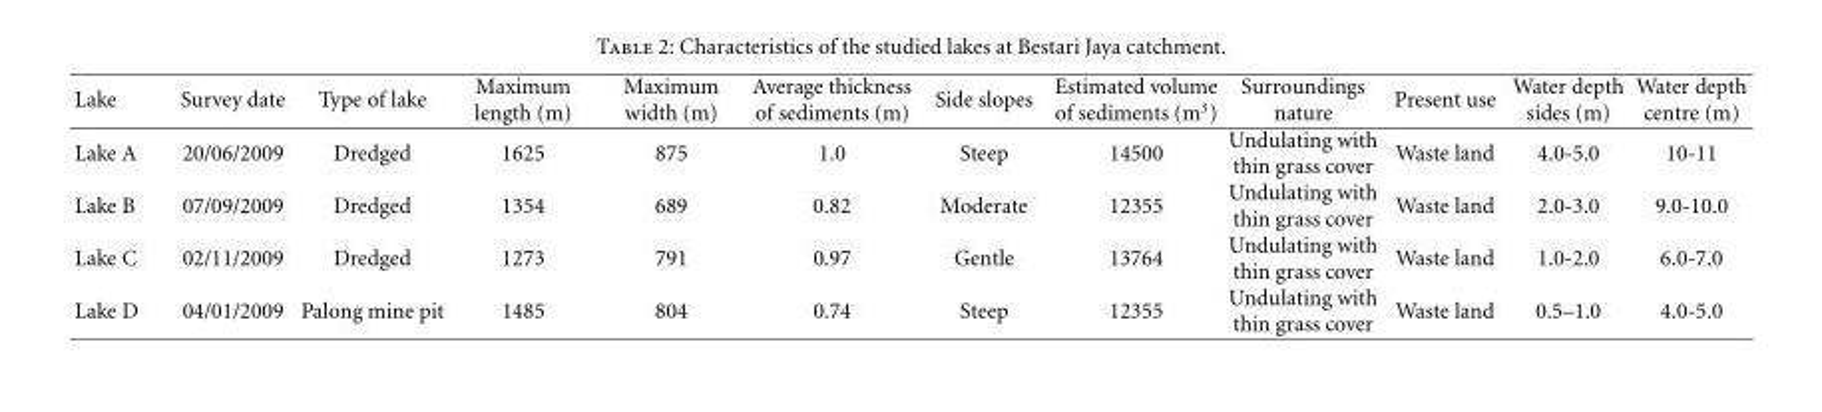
<table><thead><tr><td>Lake</td><td>Survey date</td><td>Type of lake</td><td>Maximum length (m)</td><td>Maximum width (m)</td><td>Average thickness of sediments (m)</td><td>Side slopes</td><td>Estimated volume of sediments (m<sup>3</sup>)</td><td>Surroundings nature</td><td>Present use</td><td>Water depth sides (m)</td><td>Water depth centre (m)</td></tr></thead><tbody><tr><td>Lake A</td><td>20/06/2009</td><td>Dredged</td><td>1625</td><td>875</td><td>1.0</td><td>Steep</td><td>14500</td><td>Undulating with thin grass cover</td><td>Waste land</td><td>4.0-5.0</td><td>10-11</td></tr><tr><td>Lake B</td><td>07/09/2009</td><td>Dredged</td><td>1354</td><td>689</td><td>0.82</td><td>Moderate</td><td>12355</td><td>Undulating with thin grass cover</td><td>Waste land</td><td>2.0-3.0</td><td>9.0-10.0</td></tr><tr><td>Lake C</td><td>02/11/2009</td><td>Dredged</td><td>1273</td><td>791</td><td>0.97</td><td>Gentle</td><td>13764</td><td>Undulating with thin grass cover</td><td>Waste land</td><td>1.0-2.0</td><td>6.0-7.0</td></tr><tr><td>Lake D</td><td>04/01/2009</td><td>Palong mine pit</td><td>1485</td><td>804</td><td>0.74</td><td>Steep</td><td>12355</td><td>Undulating with thin grass cover</td><td>Waste land</td><td>0.5–1.0</td><td>4.0-5.0</td></tr></tbody></table>